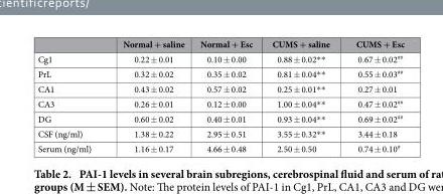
<table><thead><tr><td></td><td>Normal + saline</td><td>Normal + Esc</td><td>CUMS + saline</td><td>CUMS + Esc</td></tr></thead><tbody><tr><td>Cg1</td><td>0.22 ± 0.01</td><td>0.10 ± 0.00</td><td>0.88 ± 0.02* *</td><td>0.67 ± 0.02<sup>##</sup></td></tr><tr><td>PrL</td><td>0.32 ± 0.02</td><td>0.35 ± 0.02</td><td>0.81 ± 0.04* *</td><td>0.55 ± 0.03<sup>##</sup></td></tr><tr><td>CA1</td><td>0.43 ± 0.02</td><td>0.57 ± 0.02</td><td>0.25 ± 0.01* *</td><td>0.27 ± 0.01</td></tr><tr><td>CA3</td><td>0.26 ± 0.01</td><td>0.12 ± 0.00</td><td>1.00 ± 0.04* *</td><td>0.47 ± 0.02<sup>##</sup></td></tr><tr><td>DG</td><td>0.60 ± 0.02</td><td>0.40 ± 0.01</td><td>0.93 ± 0.04* *</td><td>0.69 ± 0.02<sup>##</sup></td></tr><tr><td>CSF (ng/ml)</td><td>1.38 ± 0.22</td><td>2.95 ± 0.51</td><td>3.55 ± 0.32* *</td><td>3.44 ± 0.18</td></tr><tr><td>Serum (ng/ml)</td><td>1.16 ± 0.17</td><td>4.66 ± 0.48</td><td>2.50 ± 0.50</td><td>0.74 ± 0.10<sup>#</sup></td></tr></tbody></table>